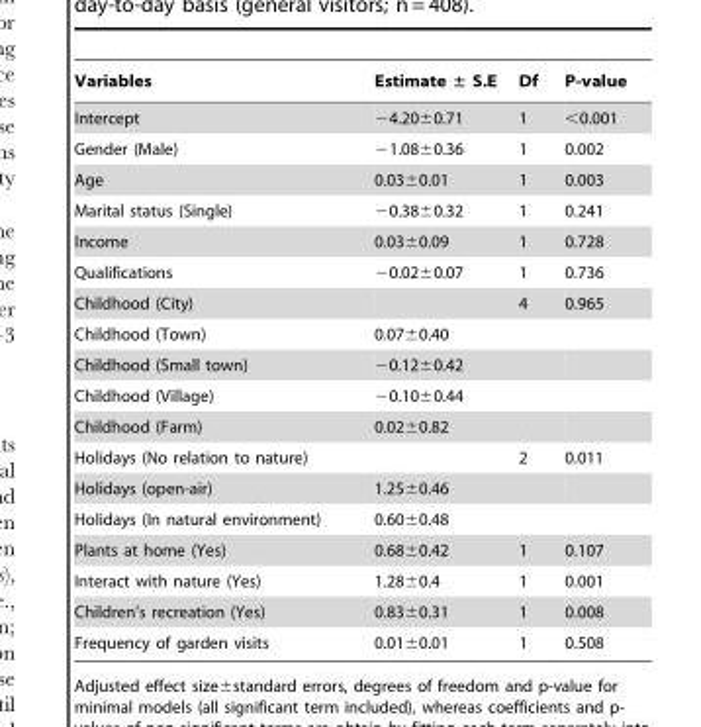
<table><thead><tr><td>Variables</td><td>Estimate ± S.E</td><td>Df</td><td>P-value</td></tr></thead><tbody><tr><td>Intercept</td><td>−4.20±0.71</td><td>1</td><td>&lt;0.001</td></tr><tr><td>Gender (Male)</td><td>−1.08±0.36</td><td>1</td><td>0.002</td></tr><tr><td>Age</td><td>0.03±0.01</td><td>1</td><td>0.003</td></tr><tr><td>Marital status (Single)</td><td>−0.38±0.32</td><td>1</td><td>0.241</td></tr><tr><td>Income</td><td>0.03±0.09</td><td>1</td><td>0.728</td></tr><tr><td>Qualifications</td><td>−0.02±0.07</td><td>1</td><td>0.736</td></tr><tr><td>Childhood (City)</td><td></td><td>4</td><td>0.965</td></tr><tr><td>Childhood (Town)</td><td>0.07±0.40</td><td></td><td></td></tr><tr><td>Childhood (Small town)</td><td>−0.12±0.42</td><td></td><td></td></tr><tr><td>Childhood (Village)</td><td>−0.10±0.44</td><td></td><td></td></tr><tr><td>Childhood (Farm)</td><td>0.02±0.82</td><td></td><td></td></tr><tr><td>Holidays (No relation to nature)</td><td></td><td>2</td><td>0.011</td></tr><tr><td>Holidays (open-air)</td><td>1.25±0.46</td><td></td><td></td></tr><tr><td>Holidays (In natural environment)</td><td>0.60±0.48</td><td></td><td></td></tr><tr><td>Plants at home (Yes)</td><td>0.68±0.42</td><td>1</td><td>0.107</td></tr><tr><td>Interact with nature (Yes)</td><td>1.28±0.4</td><td>1</td><td>0.001</td></tr><tr><td>Children’s recreation (Yes)</td><td>0.83±0.31</td><td>1</td><td>0.008</td></tr><tr><td>Frequency of garden visits</td><td>0.01±0.01</td><td>1</td><td>0.508</td></tr></tbody></table>